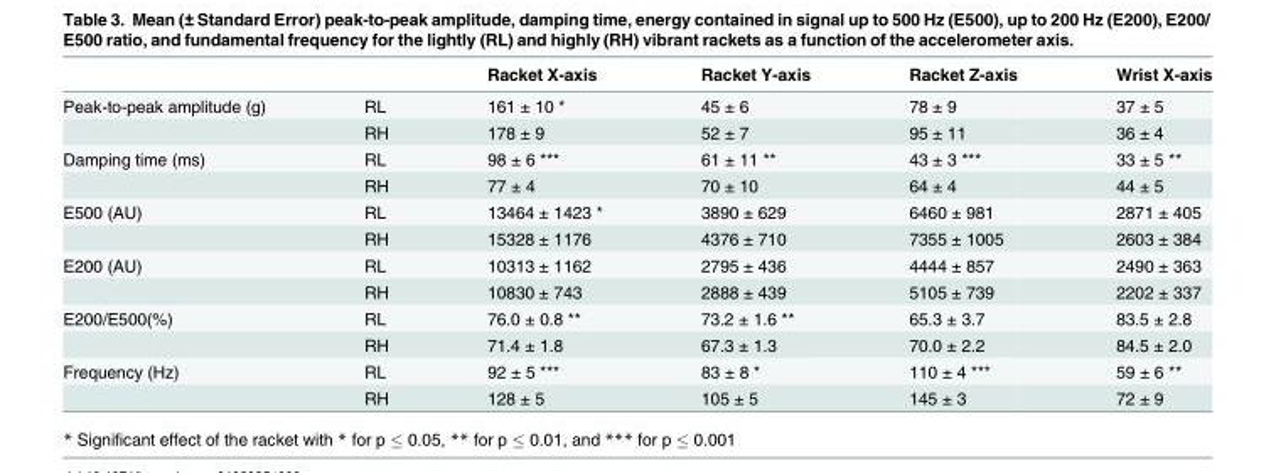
<table><thead><tr><td></td><td></td><td>Racket X-axis</td><td>Racket Y-axis</td><td>Racket Z-axis</td><td>Wrist X-axis</td></tr></thead><tbody><tr><td rowspan="2">Peak-to-peak amplitude (g)</td><td>RL</td><td>161 ± 10 *</td><td>45 ± 6</td><td>78 ± 9</td><td>37 ± 5</td></tr><tr><td>RH</td><td>178 ± 9</td><td>52 ± 7</td><td>95 ± 11</td><td>36 ± 4</td></tr><tr><td rowspan="2">Damping time (ms)</td><td>RL</td><td>98 ± 6 ***</td><td>61 ± 11 **</td><td>43 ± 3 ***</td><td>33 ± 5 **</td></tr><tr><td>RH</td><td>77 ± 4</td><td>70 ± 10</td><td>64 ± 4</td><td>44 ± 5</td></tr><tr><td rowspan="2">E500 (AU)</td><td>RL</td><td>13464 ± 1423 *</td><td>3890 ± 629</td><td>6460 ± 981</td><td>2871 ± 405</td></tr><tr><td>RH</td><td>15328 ± 1176</td><td>4376 ± 710</td><td>7355 ± 1005</td><td>2603 ± 384</td></tr><tr><td rowspan="2">E200 (AU)</td><td>RL</td><td>10313 ± 1162</td><td>2795 ± 436</td><td>4444 ± 857</td><td>2490 ± 363</td></tr><tr><td>RH</td><td>10830 ± 743</td><td>2888 ± 439</td><td>5105 ± 739</td><td>2202 ± 337</td></tr><tr><td rowspan="2">E200/E500(%)</td><td>RL</td><td>76.0 ± 0.8 **</td><td>73.2 ± 1.6 **</td><td>65.3 ± 3.7</td><td>83.5 ± 2.8</td></tr><tr><td>RH</td><td>71.4 ± 1.8</td><td>67.3 ± 1.3</td><td>70.0 ± 2.2</td><td>84.5 ± 2.0</td></tr><tr><td rowspan="2">Frequency (Hz)</td><td>RL</td><td>92 ± 5 ***</td><td>83 ± 8 *</td><td>110 ± 4 ***</td><td>59 ± 6 **</td></tr><tr><td>RH</td><td>128 ± 5</td><td>105 ± 5</td><td>145 ± 3</td><td>72 ± 9</td></tr></tbody></table>